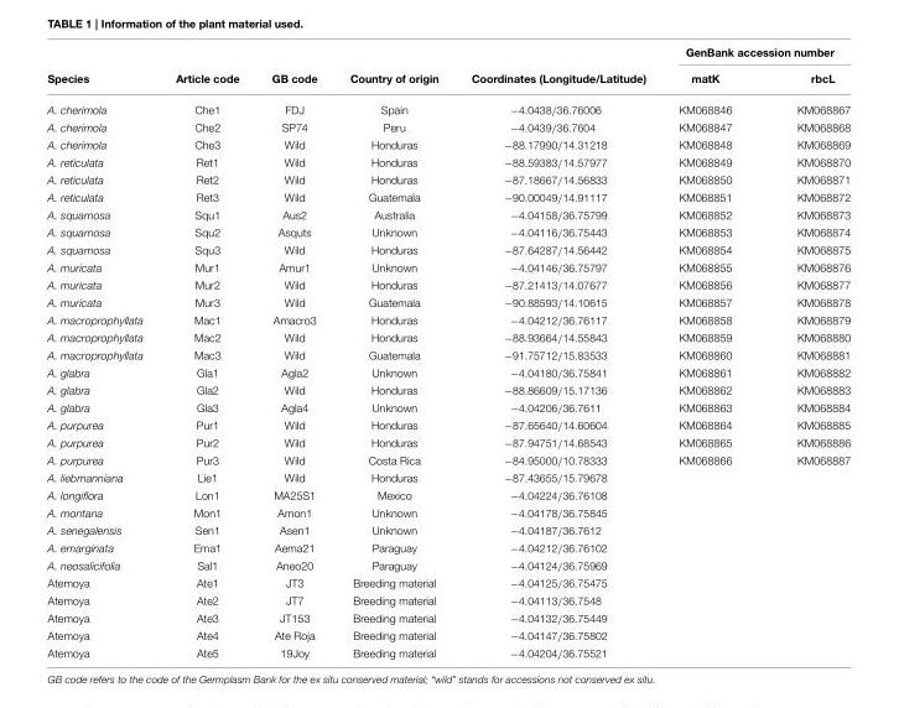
<table><thead><tr><td rowspan="2">Species</td><td rowspan="2">Article code</td><td rowspan="2">GB code</td><td rowspan="2">Country of origin</td><td rowspan="2">Coordinates (Longitude/Latitude)</td><td colspan="2">GenBank accession number</td></tr><tr><td>matK</td><td>rbcL</td></tr></thead><tbody><tr><td>A. cherimola</td><td>Che1</td><td>FDJ</td><td>Spain</td><td>−4.0438/36.76006</td><td>KM068846</td><td>KM068867</td></tr><tr><td>A. cherimola</td><td>Che2</td><td>SP74</td><td>Peru</td><td>−4.0439/36.7604</td><td>KM068847</td><td>KM068868</td></tr><tr><td>A. cherimola</td><td>Che3</td><td>Wild</td><td>Honduras</td><td>−88.17990/14.31218</td><td>KM068848</td><td>KM068869</td></tr><tr><td>A. reticulata</td><td>Ret1</td><td>Wild</td><td>Honduras</td><td>−88.59383/14.57977</td><td>KM068849</td><td>KM068870</td></tr><tr><td>A. reticulata</td><td>Ret2</td><td>Wild</td><td>Honduras</td><td>−87.18667/14.56833</td><td>KM068850</td><td>KM068871</td></tr><tr><td>A. reticulata</td><td>Ret3</td><td>Wild</td><td>Guatemala</td><td>−90.00049/14.91117</td><td>KM068851</td><td>KM068872</td></tr><tr><td>A. squamosa</td><td>Squ1</td><td>Aus2</td><td>Australia</td><td>−4.04158/36.75799</td><td>KM068852</td><td>KM068873</td></tr><tr><td>A. squamosa</td><td>Squ2</td><td>Asquts</td><td>Unknown</td><td>−4.04116/36.75443</td><td>KM068853</td><td>KM068874</td></tr><tr><td>A. squamosa</td><td>Squ3</td><td>Wild</td><td>Honduras</td><td>−87.64287/14.56442</td><td>KM068854</td><td>KM068875</td></tr><tr><td>A. muricata</td><td>Mur1</td><td>Amur1</td><td>Unknown</td><td>−4.04146/36.75797</td><td>KM068855</td><td>KM068876</td></tr><tr><td>A. muricata</td><td>Mur2</td><td>Wild</td><td>Honduras</td><td>−87.21413/14.07677</td><td>KM068856</td><td>KM068877</td></tr><tr><td>A. muricata</td><td>Mur3</td><td>Wild</td><td>Guatemala</td><td>−90.88593/14.10615</td><td>KM068857</td><td>KM068878</td></tr><tr><td>A. macroprophyllata</td><td>Mac1</td><td>Amacro3</td><td>Honduras</td><td>−4.04212/36.76117</td><td>KM068858</td><td>KM068879</td></tr><tr><td>A. macroprophyllata</td><td>Mac2</td><td>Wild</td><td>Honduras</td><td>−88.93664/14.55843</td><td>KM068859</td><td>KM068880</td></tr><tr><td>A. macroprophyllata</td><td>Mac3</td><td>Wild</td><td>Guatemala</td><td>−91.75712/15.83533</td><td>KM068860</td><td>KM068881</td></tr><tr><td>A. glabra</td><td>Gla1</td><td>Agla2</td><td>Unknown</td><td>−4.04180/36.75841</td><td>KM068861</td><td>KM068882</td></tr><tr><td>A. glabra</td><td>Gla2</td><td>Wild</td><td>Honduras</td><td>−88.86609/15.17136</td><td>KM068862</td><td>KM068883</td></tr><tr><td>A. glabra</td><td>Gla3</td><td>Agla4</td><td>Unknown</td><td>−4.04206/36.7611</td><td>KM068863</td><td>KM068884</td></tr><tr><td>A. purpurea</td><td>Pur1</td><td>Wild</td><td>Honduras</td><td>−87.65640/14.60604</td><td>KM068864</td><td>KM068885</td></tr><tr><td>A. purpurea</td><td>Pur2</td><td>Wild</td><td>Honduras</td><td>−87.94751/14.68543</td><td>KM068865</td><td>KM068886</td></tr><tr><td>A. purpurea</td><td>Pur3</td><td>Wild</td><td>Costa Rica</td><td>−84.95000/10.78333</td><td>KM068866</td><td>KM068887</td></tr><tr><td>A. liebmanniana</td><td>Lie1</td><td>Wild</td><td>Honduras</td><td>−87.43655/15.79678</td><td></td><td></td></tr><tr><td>A. longiflora</td><td>Lon1</td><td>MA25S1</td><td>Mexico</td><td>−4.04224/36.76108</td><td></td><td></td></tr><tr><td>A. montana</td><td>Mon1</td><td>Amon1</td><td>Unknown</td><td>−4.04178/36.75845</td><td></td><td></td></tr><tr><td>A. senegalensis</td><td>Sen1</td><td>Asen1</td><td>Unknown</td><td>−4.04187/36.7612</td><td></td><td></td></tr><tr><td>A. emarginata</td><td>Ema1</td><td>Aema21</td><td>Paraguay</td><td>−4.04212/36.76102</td><td></td><td></td></tr><tr><td>A. neosalicifolia</td><td>Sal1</td><td>Aneo20</td><td>Paraguay</td><td>−4.04124/36.75969</td><td></td><td></td></tr><tr><td>Atemoya</td><td>Ate1</td><td>JT3</td><td>Breeding material</td><td>−4.04125/36.75475</td><td></td><td></td></tr><tr><td>Atemoya</td><td>Ate2</td><td>JT7</td><td>Breeding material</td><td>−4.04113/36.7548</td><td></td><td></td></tr><tr><td>Atemoya</td><td>Ate3</td><td>JT153</td><td>Breeding material</td><td>−4.04132/36.75449</td><td></td><td></td></tr><tr><td>Atemoya</td><td>Ate4</td><td>Ate Roja</td><td>Breeding material</td><td>−4.04147/36.75802</td><td></td><td></td></tr><tr><td>Atemoya</td><td>Ate5</td><td>19Joy</td><td>Breeding material</td><td>−4.04204/36.75521</td><td></td><td></td></tr></tbody></table>